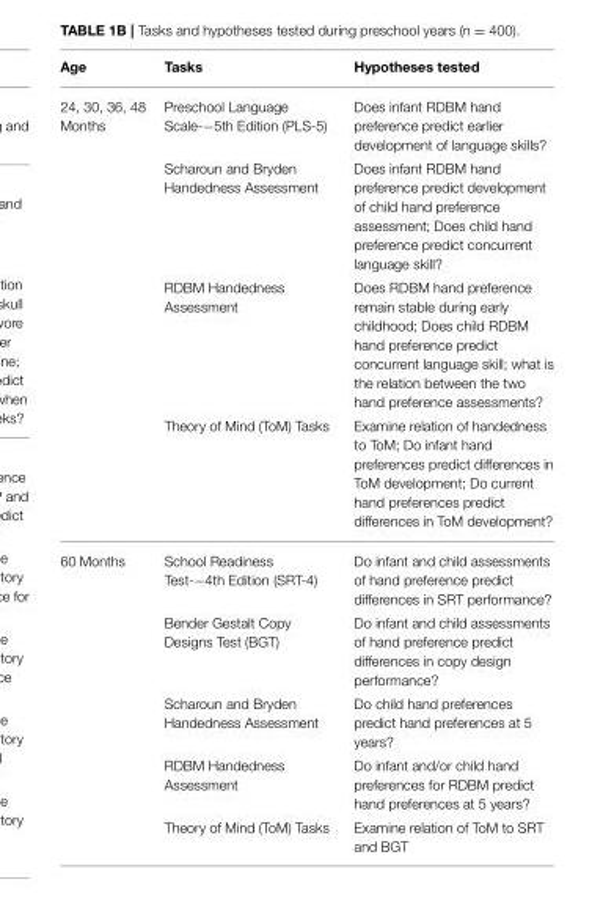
<table><thead><tr><td>Age</td><td>Tasks</td><td>Hypotheses tested</td></tr></thead><tbody><tr><td rowspan="4">24, 30, 36, 48 Months</td><td>Preschool Language Scale-−5th Edition (PLS-5)</td><td>Does infant RDBM hand preference predict earlier development of language skills?</td></tr><tr><td>Scharoun and Bryden Handedness Assessment</td><td>Does infant RDBM hand preference predict development of child hand preference assessment; Does child hand preference predict concurrent language skill?</td></tr><tr><td>RDBM Handedness Assessment</td><td>Does RDBM hand preference remain stable during early childhood; Does child RDBM hand preference predict concurrent language skill; what is the relation between the two hand preference assessments?</td></tr><tr><td>Theory of Mind (ToM) Tasks</td><td>Examine relation of handedness to ToM; Do infant hand preferences predict differences in ToM development; Do current hand preferences predict differences in ToM development?</td></tr><tr><td rowspan="5">60 Months</td><td>School Readiness Test-−4th Edition (SRT-4)</td><td>Do infant and child assessments of hand preference predict differences in SRT performance?</td></tr><tr><td>Bender Gestalt Copy Designs Test (BGT)</td><td>Do infant and child assessments of hand preference predict differences in copy design performance?</td></tr><tr><td>Scharoun and Bryden Handedness Assessment</td><td>Do child hand preferences predict hand preferences at 5 years?</td></tr><tr><td>RDBM Handedness Assessment</td><td>Do infant and/or child hand preferences for RDBM predict hand preferences at 5 years?</td></tr><tr><td>Theory of Mind (ToM) Tasks</td><td>Examine relation of ToM to SRT and BGT</td></tr></tbody></table>